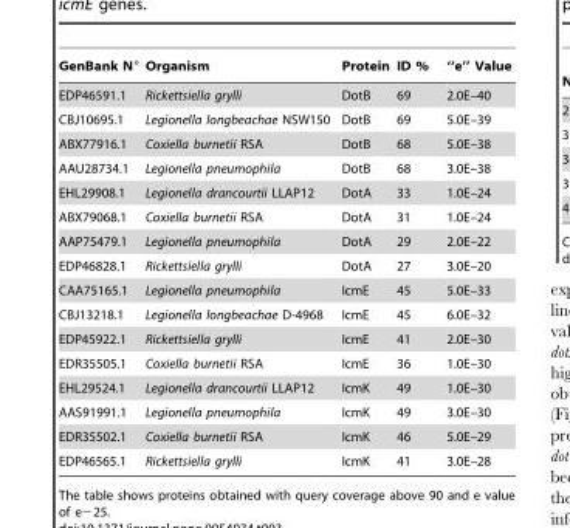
<table><thead><tr><td>GenBank N°</td><td>Organism</td><td>Protein</td><td>ID %</td><td>‘‘e’’ Value</td></tr></thead><tbody><tr><td>EDP46591.1</td><td>Rickettsiella grylli</td><td>DotB</td><td>69</td><td>2.0E–40</td></tr><tr><td>CBJ10695.1</td><td>Legionella longbeachae NSW150</td><td>DotB</td><td>69</td><td>5.0E–39</td></tr><tr><td>ABX77916.1</td><td>Coxiella burnetii RSA</td><td>DotB</td><td>68</td><td>5.0E–38</td></tr><tr><td>AAU28734.1</td><td>Legionella pneumophila</td><td>DotB</td><td>68</td><td>3.0E–38</td></tr><tr><td>EHL29908.1</td><td>Legionella drancourtii LLAP12</td><td>DotA</td><td>33</td><td>1.0E–24</td></tr><tr><td>ABX79068.1</td><td>Coxiella burnetii RSA</td><td>DotA</td><td>31</td><td>1.0E–24</td></tr><tr><td>AAP75479.1</td><td>Legionella pneumophila</td><td>DotA</td><td>29</td><td>2.0E–22</td></tr><tr><td>EDP46828.1</td><td>Rickettsiella grylli</td><td>DotA</td><td>27</td><td>3.0E–20</td></tr><tr><td>CAA75165.1</td><td>Legionella pneumophila</td><td>IcmE</td><td>45</td><td>5.0E–33</td></tr><tr><td>CBJ13218.1</td><td>Legionella longbeachae D-4968</td><td>IcmE</td><td>45</td><td>6.0E–32</td></tr><tr><td>EDP45922.1</td><td>Rickettsiella grylli</td><td>IcmE</td><td>41</td><td>2.0E–30</td></tr><tr><td>EDR35505.1</td><td>Coxiella burnetii RSA</td><td>IcmE</td><td>36</td><td>1.0E–30</td></tr><tr><td>EHL29524.1</td><td>Legionella drancourtii LLAP12</td><td>IcmK</td><td>49</td><td>1.0E–30</td></tr><tr><td>AAS91991.1</td><td>Legionella pneumophila</td><td>IcmK</td><td>49</td><td>3.0E–30</td></tr><tr><td>EDR35502.1</td><td>Coxiella burnetii RSA</td><td>IcmK</td><td>46</td><td>5.0E–29</td></tr><tr><td>EDP46565.1</td><td>Rickettsiella grylli</td><td>IcmK</td><td>41</td><td>3.0E–28</td></tr></tbody></table>